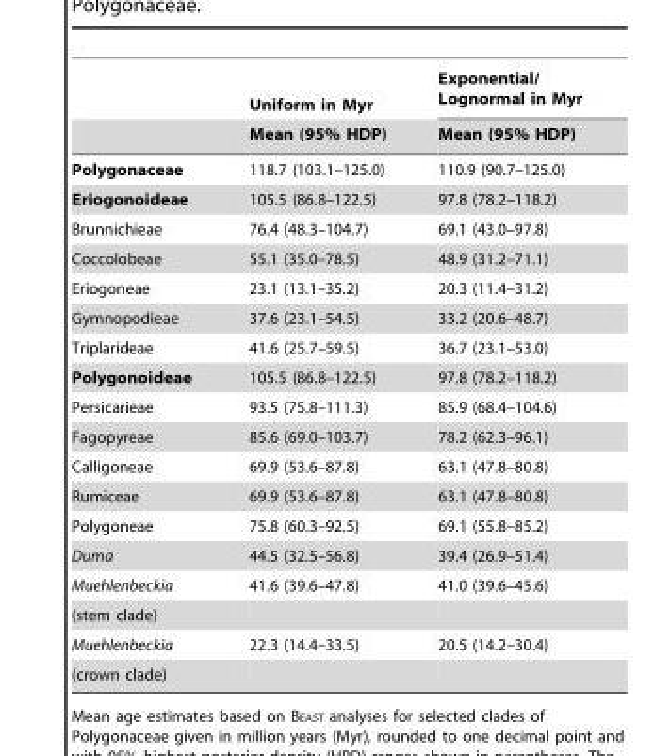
<table><thead><tr><td rowspan="2"></td><td rowspan="2">Uniform in Myr Mean (95% HDP)</td><td rowspan="2">Exponential/ Lognormal in Myr Mean (95% HDP)</td></tr><tr></tr></thead><tbody><tr><td>Polygonaceae</td><td>118.7 (103.1–125.0)</td><td>110.9 (90.7–125.0)</td></tr><tr><td>Eriogonoideae</td><td>105.5 (86.8–122.5)</td><td>97.8 (78.2–118.2)</td></tr><tr><td>Brunnichieae</td><td>76.4 (48.3–104.7)</td><td>69.1 (43.0–97.8)</td></tr><tr><td>Coccolobeae</td><td>55.1 (35.0–78.5)</td><td>48.9 (31.2–71.1)</td></tr><tr><td>Eriogoneae</td><td>23.1 (13.1–35.2)</td><td>20.3 (11.4–31.2)</td></tr><tr><td>Gymnopodieae</td><td>37.6 (23.1–54.5)</td><td>33.2 (20.6–48.7)</td></tr><tr><td>Triplarideae</td><td>41.6 (25.7–59.5)</td><td>36.7 (23.1–53.0)</td></tr><tr><td>Polygonoideae</td><td>105.5 (86.8–122.5)</td><td>97.8 (78.2–118.2)</td></tr><tr><td>Persicarieae</td><td>93.5 (75.8–111.3)</td><td>85.9 (68.4–104.6)</td></tr><tr><td>Fagopyreae</td><td>85.6 (69.0–103.7)</td><td>78.2 (62.3–96.1)</td></tr><tr><td>Calligoneae</td><td>69.9 (53.6–87.8)</td><td>63.1 (47.8–80.8)</td></tr><tr><td>Rumiceae</td><td>69.9 (53.6–87.8)</td><td>63.1 (47.8–80.8)</td></tr><tr><td>Polygoneae</td><td>75.8 (60.3–92.5)</td><td>69.1 (55.8–85.2)</td></tr><tr><td>Duma</td><td>44.5 (32.5–56.8)</td><td>39.4 (26.9–51.4)</td></tr><tr><td>Muehlenbeckia</td><td>41.6 (39.6–47.8)</td><td>41.0 (39.6–45.6)</td></tr><tr><td colspan="3">(stem clade)</td></tr><tr><td>Muehlenbeckia</td><td>22.3 (14.4–33.5)</td><td>20.5 (14.2–30.4)</td></tr><tr><td>(crown clade)</td><td></td><td></td></tr></tbody></table>